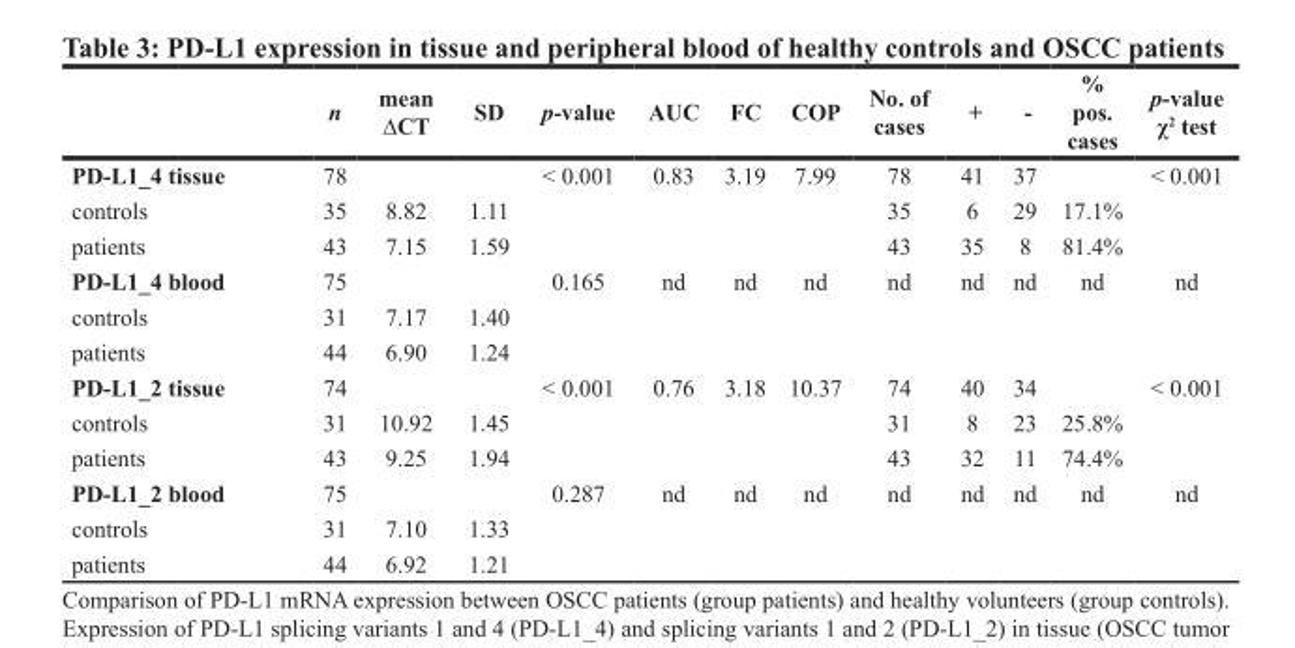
<table><thead><tr><td></td><td>n</td><td>mean ∆CT</td><td>SD</td><td>p-value</td><td>AUC</td><td>FC</td><td>COP</td><td>No. of cases</td><td>+</td><td>-</td><td>% pos. cases</td><td>p-value χ<sup>2</sup> test</td></tr></thead><tbody><tr><td>PD-L1_4 tissue</td><td>78</td><td></td><td></td><td>&lt; 0.001</td><td>0.83</td><td>3.19</td><td>7.99</td><td>78</td><td>41</td><td>37</td><td></td><td>&lt; 0.001</td></tr><tr><td>controls</td><td>35</td><td>8.82</td><td>1.11</td><td></td><td></td><td></td><td></td><td>35</td><td>6</td><td>29</td><td>17.1%</td><td></td></tr><tr><td>patients</td><td>43</td><td>7.15</td><td>1.59</td><td></td><td></td><td></td><td></td><td>43</td><td>35</td><td>8</td><td>81.4%</td><td></td></tr><tr><td>PD-L1_4 blood</td><td>75</td><td></td><td></td><td>0.165</td><td>nd</td><td>nd</td><td>nd</td><td>nd</td><td>nd</td><td>nd</td><td>nd</td><td>nd</td></tr><tr><td>controls</td><td>31</td><td>7.17</td><td>1.40</td><td></td><td></td><td></td><td></td><td></td><td></td><td></td><td></td><td></td></tr><tr><td>patients</td><td>44</td><td>6.90</td><td>1.24</td><td></td><td></td><td></td><td></td><td></td><td></td><td></td><td></td><td></td></tr><tr><td>PD-L1_2 tissue</td><td>74</td><td></td><td></td><td>&lt; 0.001</td><td>0.76</td><td>3.18</td><td>10.37</td><td>74</td><td>40</td><td>34</td><td></td><td>&lt; 0.001</td></tr><tr><td>controls</td><td>31</td><td>10.92</td><td>1.45</td><td></td><td></td><td></td><td></td><td>31</td><td>8</td><td>23</td><td>25.8%</td><td></td></tr><tr><td>patients</td><td>43</td><td>9.25</td><td>1.94</td><td></td><td></td><td></td><td></td><td>43</td><td>32</td><td>11</td><td>74.4%</td><td></td></tr><tr><td>PD-L1_2 blood</td><td>75</td><td></td><td></td><td>0.287</td><td>nd</td><td>nd</td><td>nd</td><td>nd</td><td>nd</td><td>nd</td><td>nd</td><td>nd</td></tr><tr><td>controls</td><td>31</td><td>7.10</td><td>1.33</td><td></td><td></td><td></td><td></td><td></td><td></td><td></td><td></td><td></td></tr><tr><td>patients</td><td>44</td><td>6.92</td><td>1.21</td><td></td><td></td><td></td><td></td><td></td><td></td><td></td><td></td><td></td></tr></tbody></table>